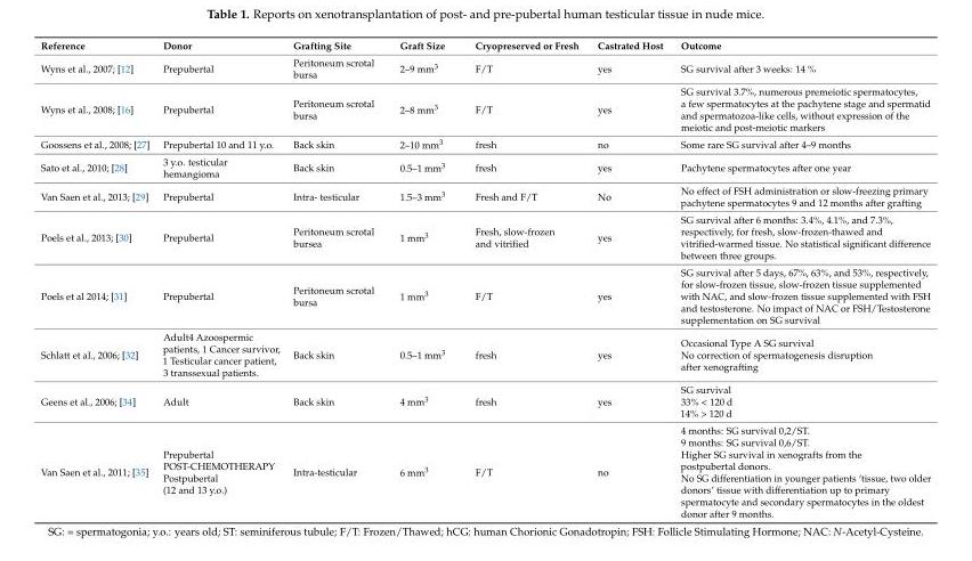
<table><thead><tr><td>Reference</td><td>Donor</td><td>Grafting Site</td><td>Graft Size</td><td>Cryopreserved or Fresh</td><td>Castrated Host</td><td>Outcome</td></tr></thead><tbody><tr><td>Wyns et al., 2007; [12]</td><td>Prepubertal</td><td>Peritoneum scrotal bursa</td><td>2–9 mm<sup>3</sup></td><td>F/T</td><td>yes</td><td>SG survival after 3 weeks: 14 %</td></tr><tr><td>Wyns et al., 2008; [16]</td><td>Prepubertal</td><td>Peritoneum scrotal bursa</td><td>2–8 mm<sup>3</sup></td><td>F/T</td><td>yes</td><td>SG survival 3.7%, numerous premeiotic spermatocytes, a few spermatocytes at the pachytene stage and spermatid and spermatozoa-like cells, without expression of the meiotic and post-meiotic markers</td></tr><tr><td>Goossens et al., 2008; [27]</td><td>Prepubertal 10 and 11 y.o.</td><td>Back skin</td><td>2–10 mm<sup>3</sup></td><td>fresh</td><td>no</td><td>Some rare SG survival after 4–9 months</td></tr><tr><td>Sato et al., 2010; [28]</td><td>3 y.o. testicular hemangioma</td><td>Back skin</td><td>0.5–1 mm<sup>3</sup></td><td>fresh</td><td>yes</td><td>Pachytene spermatocytes after one year</td></tr><tr><td>Van Saen et al., 2013; [29]</td><td>Prepubertal</td><td>Intra- testicular</td><td>1.5–3 mm<sup>3</sup></td><td>Fresh and F/T</td><td>No</td><td>No effect of FSH administration or slow-freezing primary pachytene spermatocytes 9 and 12 months after grafting</td></tr><tr><td>Poels et al., 2013; [30]</td><td>Prepubertal</td><td>Peritoneum scrotal bursea</td><td>1 mm<sup>3</sup></td><td>Fresh, slow-frozen and vitrified</td><td>yes</td><td>SG survival after 6 months: 3.4%, 4.1%, and 7.3%, respectively, for fresh, slow-frozen-thawed and vitrified-warmed tissue. No statistical significant difference between three groups.</td></tr><tr><td>Poels et al 2014; [31]</td><td>Prepubertal</td><td>Peritoneum scrotal bursa</td><td>1 mm<sup>3</sup></td><td>F/T</td><td>yes</td><td>SG survival after 5 days, 67%, 63%, and 53%, respectively, for slow-frozen tissue, slow-frozen tissue supplemented with NAC, and slow-frozen tissue supplemented with FSH and testosterone. No impact of NAC or FSH/Testosterone supplementation on SG survival</td></tr><tr><td>Schlatt et al., 2006; [32]</td><td>Adult4 Azoospermic patients, 1 Cancer survivor, 1 Testicular cancer patient, 3 transsexual patients.</td><td>Back skin</td><td>0.5–1 mm<sup>3</sup></td><td>fresh</td><td>yes</td><td>Occasional Type A SG survival No correction of spermatogenesis disruption after xenografting</td></tr><tr><td>Geens et al., 2006; [34]</td><td>Adult</td><td>Back skin</td><td>4 mm<sup>3</sup></td><td>fresh</td><td>yes</td><td>SG survival 33% &lt; 120 d 14% &gt; 120 d</td></tr><tr><td>Van Saen et al., 2011; [35]</td><td>Prepubertal POST-CHEMOTHERAPY Postpubertal (12 and 13 y.o.)</td><td>Intra-testicular</td><td>6 mm<sup>3</sup></td><td>F/T</td><td>no</td><td>4 months: SG survival 0,2/ST. 9 months: SG survival 0,6/ST. Higher SG survival in xenografts from the postpubertal donors. No SG differentiation in younger patients ‘tissue, two older donors’ tissue with differentiation up to primary spermatocyte and secondary spermatocytes in the oldest donor after 9 months.</td></tr></tbody></table>